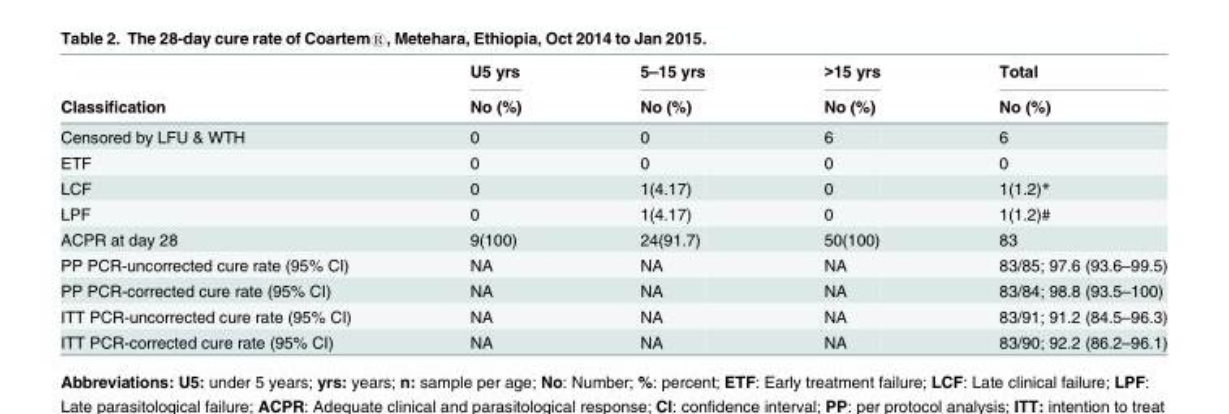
<table><thead><tr><td rowspan="2">Classification</td><td rowspan="2">U5 yrs No (%)</td><td rowspan="2">5–15 yrs No (%)</td><td rowspan="2">&gt;15 yrs No (%)</td><td rowspan="2">Total No (%)</td></tr><tr></tr></thead><tbody><tr><td>Censored by LFU &amp; WTH</td><td>0</td><td>0</td><td>6</td><td>6</td></tr><tr><td>ETF</td><td>0</td><td>0</td><td>0</td><td>0</td></tr><tr><td>LCF</td><td>0</td><td>1(4.17)</td><td>0</td><td>1(1.2)*</td></tr><tr><td>LPF</td><td>0</td><td>1(4.17)</td><td>0</td><td>1(1.2)#</td></tr><tr><td>ACPR at day 28</td><td>9(100)</td><td>24(91.7)</td><td>50(100)</td><td>83</td></tr><tr><td>PP PCR-uncorrected cure rate (95% CI)</td><td>NA</td><td>NA</td><td>NA</td><td>83/85; 97.6 (93.6–99.5)</td></tr><tr><td>PP PCR-corrected cure rate (95% CI)</td><td>NA</td><td>NA</td><td>NA</td><td>83/84; 98.8 (93.5–100)</td></tr><tr><td>ITT PCR-uncorrected cure rate (95% CI)</td><td>NA</td><td>NA</td><td>NA</td><td>83/91; 91.2 (84.5–96.3)</td></tr><tr><td>ITT PCR-corrected cure rate (95% CI)</td><td>NA</td><td>NA</td><td>NA</td><td>83/90; 92.2 (86.2–96.1)</td></tr></tbody></table>